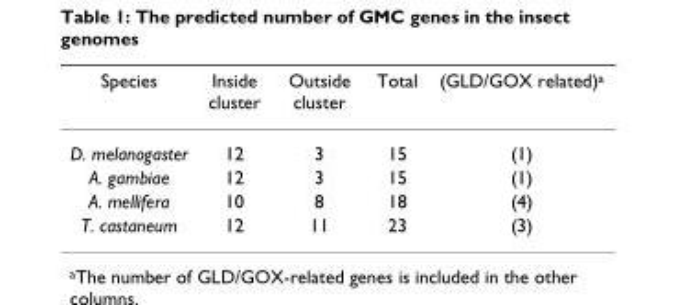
<table><thead><tr><td>Species</td><td>Inside cluster</td><td>Outside cluster</td><td>Total</td><td>(GLD/GOX related)<sup>a</sup></td></tr></thead><tbody><tr><td>D. melanogaster</td><td>12</td><td>3</td><td>15</td><td>(1)</td></tr><tr><td>A. gambiae</td><td>12</td><td>3</td><td>15</td><td>(1)</td></tr><tr><td>A. mellifera</td><td>10</td><td>8</td><td>18</td><td>(4)</td></tr><tr><td>T. castaneum</td><td>12</td><td>11</td><td>23</td><td>(3)</td></tr></tbody></table>